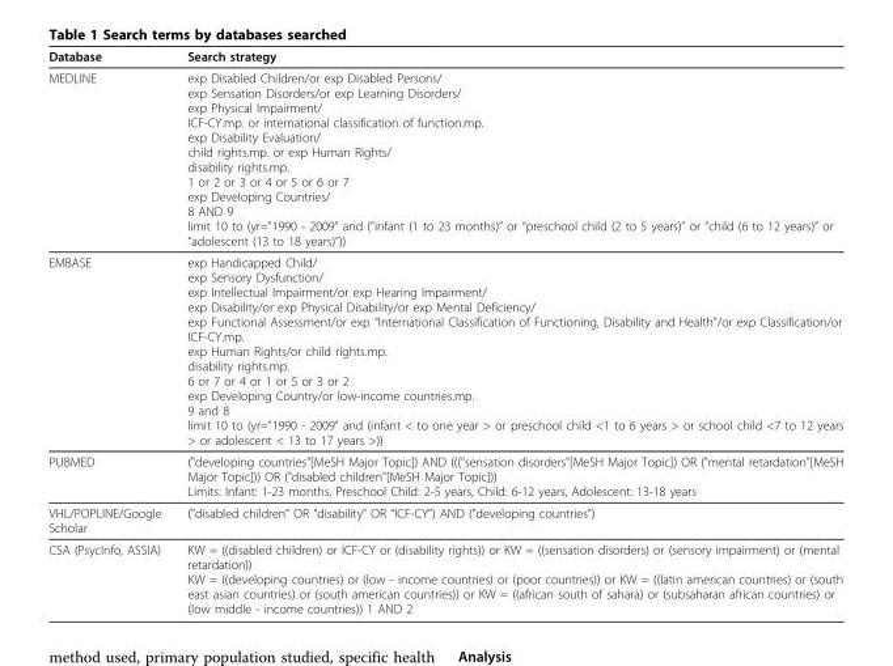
<table><thead><tr><td>Database</td><td>Search strategy</td></tr></thead><tbody><tr><td>MEDLINE</td><td>exp Disabled Children/or exp Disabled Persons/ exp Sensation Disorders/or exp Learning Disorders/ exp Physical Impairment/ ICF-CY.mp. or international classification of function.mp. exp Disability Evaluation/ child rights.mp. or exp Human Rights/ disability rights.mp. 1 or 2 or 3 or 4 or 5 or 6 or 7 exp Developing Countries/ 8 AND 9 limit 10 to (yr=&quot;1990 - 2009” and (&quot;infant (1 to 23 months)” or “preschool child (2 to 5 years)” or “child (6 to 12 years)” or “adolescent (13 to 18 years)”))</td></tr><tr><td>EMBASE</td><td>exp Handicapped Child/ exp Sensory Dysfunction/ exp Intellectual Impairment/or exp Hearing Impairment/ exp Disability/or exp Physical Disability/or exp Mental Deficiency/ exp Functional Assessment/or exp “International Classification of Functioning, Disability and Health&quot;/or exp Classification/or ICF-CY.mp. exp Human Rights/or child rights.mp. disability rights.mp. 6 or 7 or 4 or 1 or 5 or 3 or 2 exp Developing Country/or low-income countries.mp. 9 and 8 limit 10 to (yr=&quot;1990 - 2009” and (infant &lt; to one year &gt; or preschool child &lt;1 to 6 years &gt; or school child &lt;7 to 12 years &gt; or adolescent &lt; 13 to 17 years &gt;))</td></tr><tr><td>PUBMED</td><td>(&quot;developing countries&quot;[MeSH Major Topic]) AND (((&quot;sensation disorders&quot;[MeSH Major Topic]) OR (&quot;mental retardation&quot;[MeSH Major Topic])) OR (&quot;disabled children&quot;[MeSH Major Topic])) Limits: Infant: 1-23 months, Preschool Child: 2-5 years, Child: 6-12 years, Adolescent: 13-18 years</td></tr><tr><td>VHL/POPLINE/Google Scholar</td><td>(&quot;disabled children” OR “disability” OR “ICF-CY”) AND (&quot;developing countries”)</td></tr><tr><td>CSA (PsycInfo, ASSIA)</td><td>KW = ((disabled children) or ICF-CY or (disability rights)) or KW = ((sensation disorders) or (sensory impairment) or (mental retardation)) KW = ((developing countries) or (low - income countries) or (poor countries)) or KW = ((latin american countries) or (south east asian countries) or (south american countries)) or KW = ((african south of sahara) or (subsaharan african countries) or (low middle - income countries)) 1 AND 2</td></tr></tbody></table>